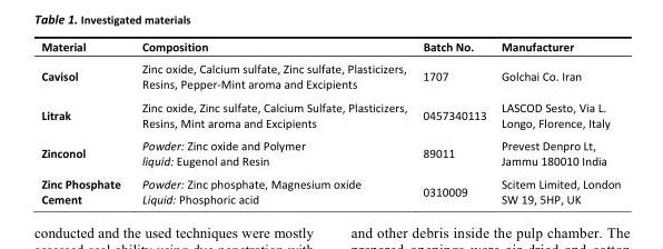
<table><thead><tr><td>Material</td><td>Composition</td><td>Batch No.</td><td>Manufacturer</td></tr></thead><tbody><tr><td>Cavisol</td><td>Zinc oxide, Calcium sulfate, Zinc sulfate, Plasticizers, Resins, Pepper-Mint aroma and Excipients</td><td>1707</td><td>Golchai Co. Iran</td></tr><tr><td>Litrak</td><td>Zinc oxide, Zinc sulfate, Calcium Sulfate, Plasticizers, Resins, Mint aroma and Excipients</td><td>0457340113</td><td>LASCOD Sesto, Via L. Longo, Florence, Italy</td></tr><tr><td>Zinconol</td><td>Powder: Zinc oxide and Polymer liquid: Eugenol and Resin</td><td>89011</td><td>Prevest Denpro Lt, Jammu 180010 India</td></tr><tr><td>Zinc Phosphate Cement</td><td>Powder: Zinc phosphate, Magnesium oxide Liquid: Phosphoric acid</td><td>0310009</td><td>Scitem Limited, London SW 19, 5HP, UK</td></tr></tbody></table>